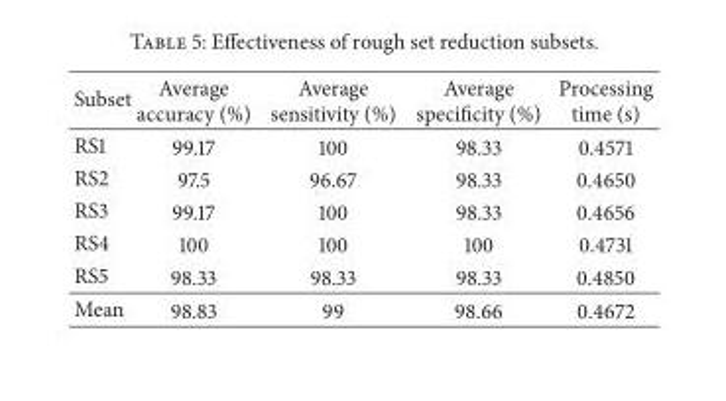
<table><thead><tr><td>Subset</td><td>Average accuracy (%)</td><td>Average sensitivity (%)</td><td>Average specificity (%)</td><td>Processing time (s)</td></tr></thead><tbody><tr><td>RS1</td><td>99.17</td><td>100</td><td>98.33</td><td>0.4571</td></tr><tr><td>RS2</td><td>97.5</td><td>96.67</td><td>98.33</td><td>0.4650</td></tr><tr><td>RS3</td><td>99.17</td><td>100</td><td>98.33</td><td>0.4656</td></tr><tr><td>RS4</td><td>100</td><td>100</td><td>100</td><td>0.4731</td></tr><tr><td>RS5</td><td>98.33</td><td>98.33</td><td>98.33</td><td>0.4850</td></tr><tr><td>Mean</td><td>98.83</td><td>99</td><td>98.66</td><td>0.4672</td></tr></tbody></table>